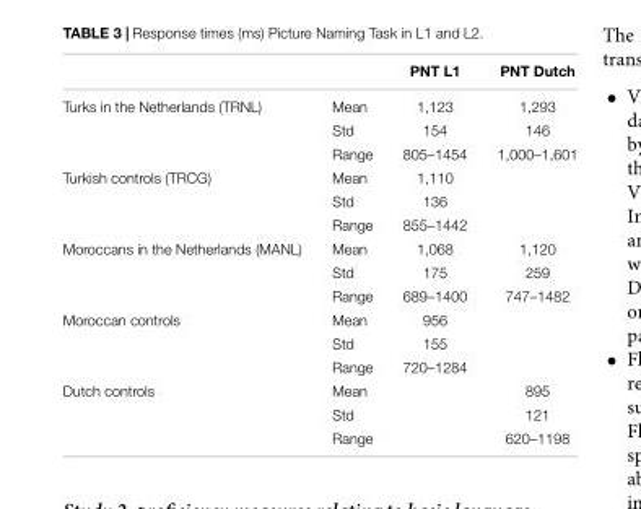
<table><thead><tr><td></td><td></td><td>PNT L1</td><td>PNT Dutch</td></tr></thead><tbody><tr><td rowspan="3">Turks in the Netherlands (TRNL)</td><td>Mean</td><td>1,123</td><td>1,293</td></tr><tr><td>Std</td><td>154</td><td>146</td></tr><tr><td>Range</td><td>805–1454</td><td>1,000–1,601</td></tr><tr><td rowspan="3">Turkish controls (TRCG)</td><td>Mean</td><td>1,110</td><td></td></tr><tr><td>Std</td><td>136</td><td></td></tr><tr><td>Range</td><td>855–1442</td><td></td></tr><tr><td rowspan="3">Moroccans in the Netherlands (MANL)</td><td>Mean</td><td>1,068</td><td>1,120</td></tr><tr><td>Std</td><td>175</td><td>259</td></tr><tr><td>Range</td><td>689–1400</td><td>747–1482</td></tr><tr><td rowspan="3">Moroccan controls</td><td>Mean</td><td>956</td><td></td></tr><tr><td>Std</td><td>155</td><td></td></tr><tr><td>Range</td><td>720–1284</td><td></td></tr><tr><td rowspan="3">Dutch controls</td><td>Mean</td><td></td><td>895</td></tr><tr><td>Std</td><td></td><td>121</td></tr><tr><td>Range</td><td></td><td>620–1198</td></tr></tbody></table>